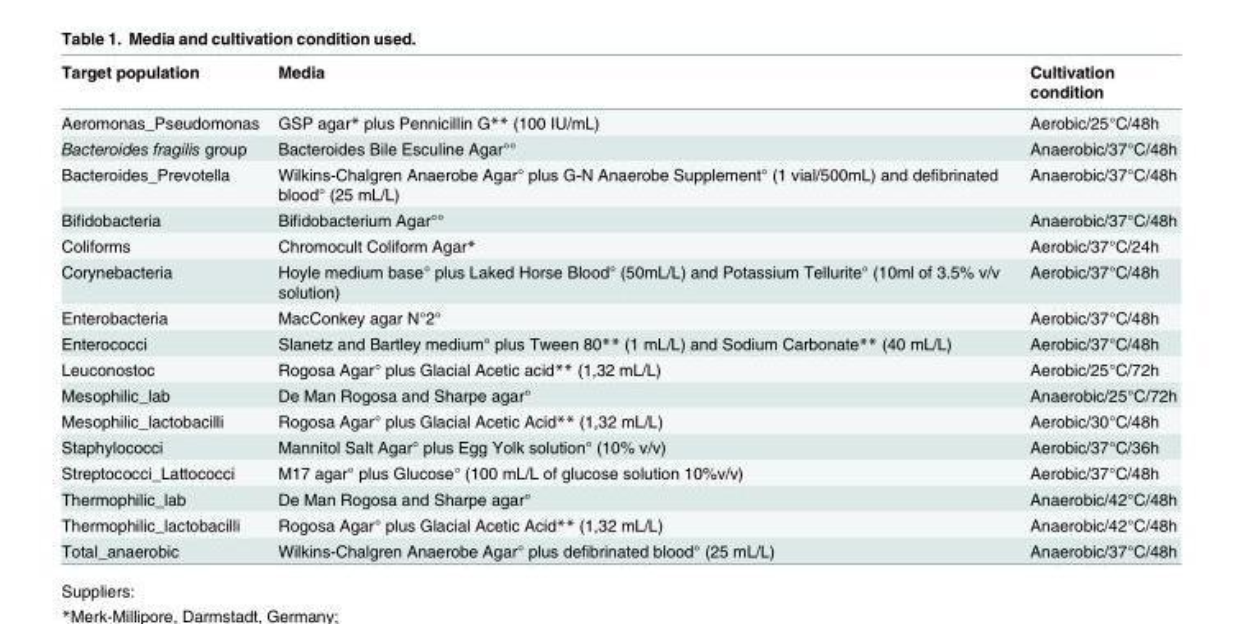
<table><thead><tr><td>Target population</td><td>Media</td><td>Cultivation condition</td></tr></thead><tbody><tr><td>Aeromonas_Pseudomonas</td><td>GSP agar* plus Pennicillin G** (100 IU/mL)</td><td>Aerobic/25°C/48h</td></tr><tr><td>Bacteroides fragilis group</td><td>Bacteroides Bile Esculine Agar°°</td><td>Anaerobic/37°C/48h</td></tr><tr><td>Bacteroides_Prevotella</td><td>Wilkins-Chalgren Anaerobe Agar° plus G-N Anaerobe Supplement° (1 vial/500mL) and defibrinated blood° (25 mL/L)</td><td>Anaerobic/37°C/48h</td></tr><tr><td>Bifidobacteria</td><td>Bifidobacterium Agar°°</td><td>Anaerobic/37°C/48h</td></tr><tr><td>Coliforms</td><td>Chromocult Coliform Agar*</td><td>Aerobic/37°C/24h</td></tr><tr><td>Corynebacteria</td><td>Hoyle medium base° plus Laked Horse Blood° (50mL/L) and Potassium Tellurite° (10ml of 3.5% v/v solution)</td><td>Aerobic/37°C/48h</td></tr><tr><td>Enterobacteria</td><td>MacConkey agar N°2°</td><td>Aerobic/37°C/48h</td></tr><tr><td>Enterococci</td><td>Slanetz and Bartley medium° plus Tween 80** (1 mL/L) and Sodium Carbonate** (40 mL/L)</td><td>Aerobic/37°C/48h</td></tr><tr><td>Leuconostoc</td><td>Rogosa Agar° plus Glacial Acetic acid** (1,32 mL/L)</td><td>Aerobic/25°C/72h</td></tr><tr><td>Mesophilic_lab</td><td>De Man Rogosa and Sharpe agar°</td><td>Anaerobic/25°C/72h</td></tr><tr><td>Mesophilic_lactobacilli</td><td>Rogosa Agar° plus Glacial Acetic Acid** (1,32 mL/L)</td><td>Aerobic/30°C/48h</td></tr><tr><td>Staphylococci</td><td>Mannitol Salt Agar° plus Egg Yolk solution° (10% v/v)</td><td>Aerobic/37°C/36h</td></tr><tr><td>Streptococci_Lattococci</td><td>M17 agar° plus Glucose° (100 mL/L of glucose solution 10%v/v)</td><td>Aerobic/37°C/48h</td></tr><tr><td>Thermophilic_lab</td><td>De Man Rogosa and Sharpe agar°</td><td>Anaerobic/42°C/48h</td></tr><tr><td>Thermophilic_lactobacilli</td><td>Rogosa Agar° plus Glacial Acetic Acid** (1,32 mL/L)</td><td>Anaerobic/42°C/48h</td></tr><tr><td>Total_anaerobic</td><td>Wilkins-Chalgren Anaerobe Agar° plus defibrinated blood° (25 mL/L)</td><td>Anaerobic/37°C/48h</td></tr></tbody></table>